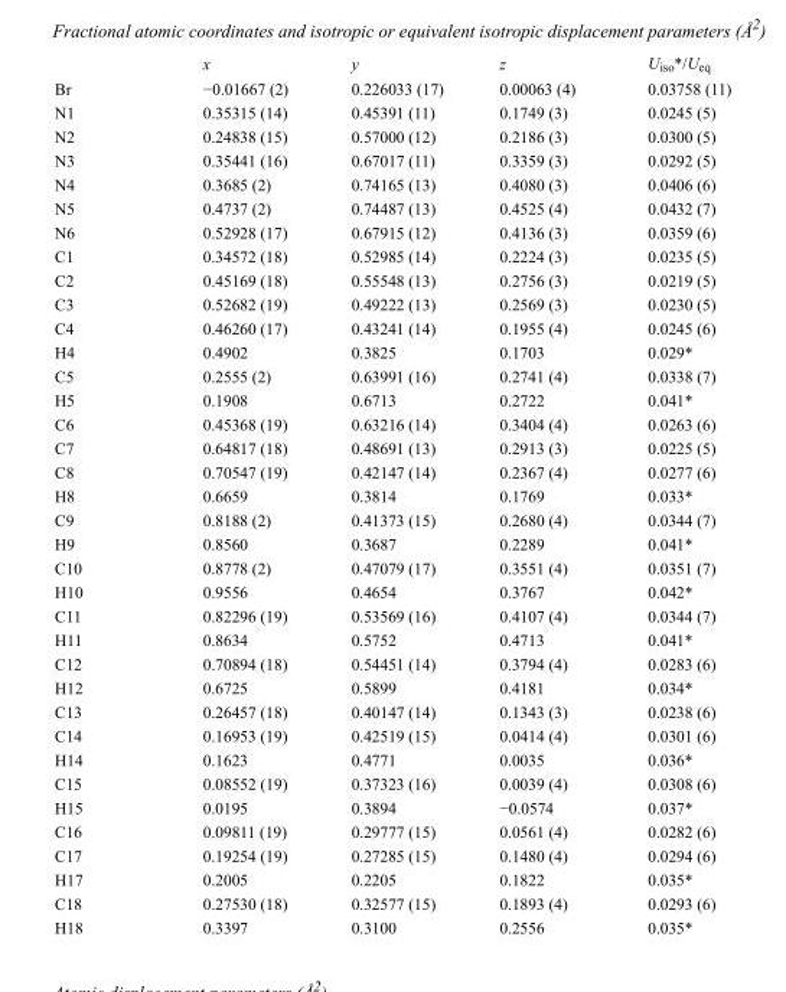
<table><thead><tr><td></td><td>x</td><td>y</td><td>z</td><td>U<sub>iso</sub>*/U<sub>eq</sub></td></tr></thead><tbody><tr><td>Br</td><td>−0.01667 (2)</td><td>0.226033 (17)</td><td>0.00063 (4)</td><td>0.03758 (11)</td></tr><tr><td>N1</td><td>0.35315 (14)</td><td>0.45391 (11)</td><td>0.1749 (3)</td><td>0.0245 (5)</td></tr><tr><td>N2</td><td>0.24838 (15)</td><td>0.57000 (12)</td><td>0.2186 (3)</td><td>0.0300 (5)</td></tr><tr><td>N3</td><td>0.35441 (16)</td><td>0.67017 (11)</td><td>0.3359 (3)</td><td>0.0292 (5)</td></tr><tr><td>N4</td><td>0.3685 (2)</td><td>0.74165 (13)</td><td>0.4080 (3)</td><td>0.0406 (6)</td></tr><tr><td>N5</td><td>0.4737 (2)</td><td>0.74487 (13)</td><td>0.4525 (4)</td><td>0.0432 (7)</td></tr><tr><td>N6</td><td>0.52928 (17)</td><td>0.67915 (12)</td><td>0.4136 (3)</td><td>0.0359 (6)</td></tr><tr><td>C1</td><td>0.34572 (18)</td><td>0.52985 (14)</td><td>0.2224 (3)</td><td>0.0235 (5)</td></tr><tr><td>C2</td><td>0.45169 (18)</td><td>0.55548 (13)</td><td>0.2756 (3)</td><td>0.0219 (5)</td></tr><tr><td>C3</td><td>0.52682 (19)</td><td>0.49222 (13)</td><td>0.2569 (3)</td><td>0.0230 (5)</td></tr><tr><td>C4</td><td>0.46260 (17)</td><td>0.43241 (14)</td><td>0.1955 (4)</td><td>0.0245 (6)</td></tr><tr><td>H4</td><td>0.4902</td><td>0.3825</td><td>0.1703</td><td>0.029*</td></tr><tr><td>C5</td><td>0.2555 (2)</td><td>0.63991 (16)</td><td>0.2741 (4)</td><td>0.0338 (7)</td></tr><tr><td>H5</td><td>0.1908</td><td>0.6713</td><td>0.2722</td><td>0.041*</td></tr><tr><td>C6</td><td>0.45368 (19)</td><td>0.63216 (14)</td><td>0.3404 (4)</td><td>0.0263 (6)</td></tr><tr><td>C7</td><td>0.64817 (18)</td><td>0.48691 (13)</td><td>0.2913 (3)</td><td>0.0225 (5)</td></tr><tr><td>C8</td><td>0.70547 (19)</td><td>0.42147 (14)</td><td>0.2367 (4)</td><td>0.0277 (6)</td></tr><tr><td>H8</td><td>0.6659</td><td>0.3814</td><td>0.1769</td><td>0.033*</td></tr><tr><td>C9</td><td>0.8188 (2)</td><td>0.41373 (15)</td><td>0.2680 (4)</td><td>0.0344 (7)</td></tr><tr><td>H9</td><td>0.8560</td><td>0.3687</td><td>0.2289</td><td>0.041*</td></tr><tr><td>C10</td><td>0.8778 (2)</td><td>0.47079 (17)</td><td>0.3551 (4)</td><td>0.0351 (7)</td></tr><tr><td>H10</td><td>0.9556</td><td>0.4654</td><td>0.3767</td><td>0.042*</td></tr><tr><td>C11</td><td>0.82296 (19)</td><td>0.53569 (16)</td><td>0.4107 (4)</td><td>0.0344 (7)</td></tr><tr><td>H11</td><td>0.8634</td><td>0.5752</td><td>0.4713</td><td>0.041*</td></tr><tr><td>C12</td><td>0.70894 (18)</td><td>0.54451 (14)</td><td>0.3794 (4)</td><td>0.0283 (6)</td></tr><tr><td>H12</td><td>0.6725</td><td>0.5899</td><td>0.4181</td><td>0.034*</td></tr><tr><td>C13</td><td>0.26457 (18)</td><td>0.40147 (14)</td><td>0.1343 (3)</td><td>0.0238 (6)</td></tr><tr><td>C14</td><td>0.16953 (19)</td><td>0.42519 (15)</td><td>0.0414 (4)</td><td>0.0301 (6)</td></tr><tr><td>H14</td><td>0.1623</td><td>0.4771</td><td>0.0035</td><td>0.036*</td></tr><tr><td>C15</td><td>0.08552 (19)</td><td>0.37323 (16)</td><td>0.0039 (4)</td><td>0.0308 (6)</td></tr><tr><td>H15</td><td>0.0195</td><td>0.3894</td><td>−0.0574</td><td>0.037*</td></tr><tr><td>C16</td><td>0.09811 (19)</td><td>0.29777 (15)</td><td>0.0561 (4)</td><td>0.0282 (6)</td></tr><tr><td>C17</td><td>0.19254 (19)</td><td>0.27285 (15)</td><td>0.1480 (4)</td><td>0.0294 (6)</td></tr><tr><td>H17</td><td>0.2005</td><td>0.2205</td><td>0.1822</td><td>0.035*</td></tr><tr><td>C18</td><td>0.27530 (18)</td><td>0.32577 (15)</td><td>0.1893 (4)</td><td>0.0293 (6)</td></tr><tr><td>H18</td><td>0.3397</td><td>0.3100</td><td>0.2556</td><td>0.035*</td></tr></tbody></table>